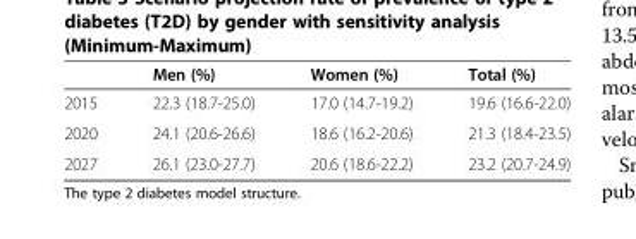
<table><thead><tr><td></td><td>Men (%)</td><td>Women (%)</td><td>Total (%)</td></tr></thead><tbody><tr><td>2015</td><td>22.3 (18.7-25.0)</td><td>17.0 (14.7-19.2)</td><td>19.6 (16.6-22.0)</td></tr><tr><td>2020</td><td>24.1 (20.6-26.6)</td><td>18.6 (16.2-20.6)</td><td>21.3 (18.4-23.5)</td></tr><tr><td>2027</td><td>26.1 (23.0-27.7)</td><td>20.6 (18.6-22.2)</td><td>23.2 (20.7-24.9)</td></tr></tbody></table>